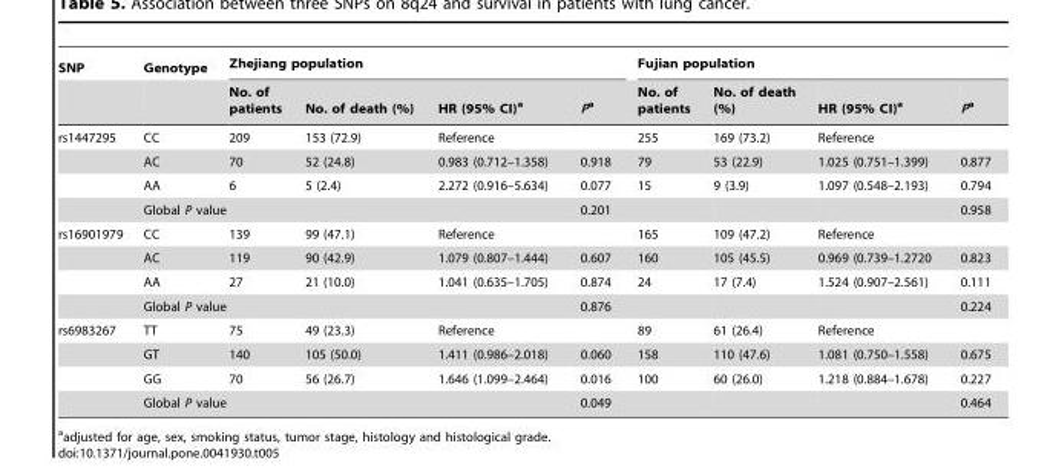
<table><thead><tr><td rowspan="2">SNP</td><td rowspan="2">Genotype</td><td colspan="4">Zhejiang population</td><td colspan="4">Fujian population</td></tr><tr><td>No. of patients</td><td>No. of death (%)</td><td>HR (95% CI)<sup>a</sup></td><td>Pa</td><td>No. of patients</td><td>No. of death (%)</td><td>HR (95% CI)<sup>a</sup></td><td>Pa</td></tr></thead><tbody><tr><td rowspan="4">rs1447295</td><td>CC</td><td>209</td><td>153 (72.9)</td><td>Reference</td><td></td><td>255</td><td>169 (73.2)</td><td>Reference</td><td></td></tr><tr><td>AC</td><td>70</td><td>52 (24.8)</td><td>0.983 (0.712–1.358)</td><td>0.918</td><td>79</td><td>53 (22.9)</td><td>1.025 (0.751–1.399)</td><td>0.877</td></tr><tr><td>AA</td><td>6</td><td>5 (2.4)</td><td>2.272 (0.916–5.634)</td><td>0.077</td><td>15</td><td>9 (3.9)</td><td>1.097 (0.548–2.193)</td><td>0.794</td></tr><tr><td colspan="2">Global P value</td><td></td><td></td><td>0.201</td><td></td><td></td><td></td><td>0.958</td></tr><tr><td rowspan="4">rs16901979</td><td>CC</td><td>139</td><td>99 (47.1)</td><td>Reference</td><td></td><td>165</td><td>109 (47.2)</td><td>Reference</td><td></td></tr><tr><td>AC</td><td>119</td><td>90 (42.9)</td><td>1.079 (0.807–1.444)</td><td>0.607</td><td>160</td><td>105 (45.5)</td><td>0.969 (0.739–1.2720</td><td>0.823</td></tr><tr><td>AA</td><td>27</td><td>21 (10.0)</td><td>1.041 (0.635–1.705)</td><td>0.874</td><td>24</td><td>17 (7.4)</td><td>1.524 (0.907–2.561)</td><td>0.111</td></tr><tr><td colspan="2">Global P value</td><td></td><td></td><td>0.876</td><td></td><td></td><td></td><td>0.224</td></tr><tr><td rowspan="4">rs6983267</td><td>TT</td><td>75</td><td>49 (23.3)</td><td>Reference</td><td></td><td>89</td><td>61 (26.4)</td><td>Reference</td><td></td></tr><tr><td>GT</td><td>140</td><td>105 (50.0)</td><td>1.411 (0.986–2.018)</td><td>0.060</td><td>158</td><td>110 (47.6)</td><td>1.081 (0.750–1.558)</td><td>0.675</td></tr><tr><td>GG</td><td>70</td><td>56 (26.7)</td><td>1.646 (1.099–2.464)</td><td>0.016</td><td>100</td><td>60 (26.0)</td><td>1.218 (0.884–1.678)</td><td>0.227</td></tr><tr><td colspan="2">Global P value</td><td></td><td></td><td>0.049</td><td></td><td></td><td></td><td>0.464</td></tr></tbody></table>